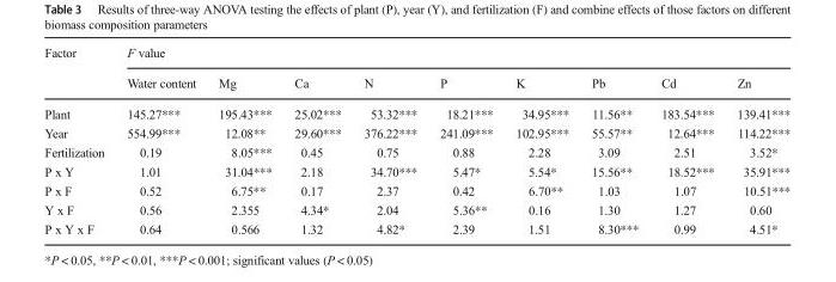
<table><thead><tr><td rowspan="2">Factor</td><td colspan="9">F value</td></tr><tr><td>Water content</td><td>Mg</td><td>Ca</td><td>N</td><td>P</td><td>K</td><td>Pb</td><td>Cd</td><td>Zn</td></tr></thead><tbody><tr><td>Plant</td><td>145.27***</td><td>195.43***</td><td>25.02***</td><td>53.32***</td><td>18.21***</td><td>34.95***</td><td>11.56**</td><td>183.54***</td><td>139.41***</td></tr><tr><td>Year</td><td>554.99***</td><td>12.08**</td><td>29.60***</td><td>376.22***</td><td>241.09***</td><td>102.95***</td><td>55.57**</td><td>12.64***</td><td>114.22***</td></tr><tr><td>Fertilization</td><td>0.19</td><td>8.05***</td><td>0.45</td><td>0.75</td><td>0.88</td><td>2.28</td><td>3.09</td><td>2.51</td><td>3.52*</td></tr><tr><td>P x Y</td><td>1.01</td><td>31.04***</td><td>2.18</td><td>34.70***</td><td>5.47*</td><td>5.54*</td><td>15.56**</td><td>18.52***</td><td>35.91***</td></tr><tr><td>P x F</td><td>0.52</td><td>6.75**</td><td>0.17</td><td>2.37</td><td>0.42</td><td>6.70**</td><td>1.03</td><td>1.07</td><td>10.51***</td></tr><tr><td>Y x F</td><td>0.56</td><td>2.355</td><td>4.34*</td><td>2.04</td><td>5.36**</td><td>0.16</td><td>1.30</td><td>1.27</td><td>0.60</td></tr><tr><td>P x Y x F</td><td>0.64</td><td>0.566</td><td>1.32</td><td>4.82*</td><td>2.39</td><td>1.51</td><td>8.30***</td><td>0.99</td><td>4.51*</td></tr></tbody></table>